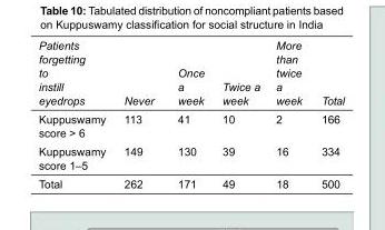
<table><tbody><tr><td>Patients forgetting to instill eyedrops</td><td>Never</td><td>Once a week</td><td>Twice a week</td><td>More than twice a week</td><td>Total</td></tr><tr><td>Kuppuswamy score &gt; 6</td><td>113</td><td>41</td><td>10</td><td>2</td><td>166</td></tr><tr><td>Kuppuswamy score 1–5</td><td>149</td><td>130</td><td>39</td><td>16</td><td>334</td></tr><tr><td>Total</td><td>262</td><td>171</td><td>49</td><td>18</td><td>500</td></tr></tbody></table>